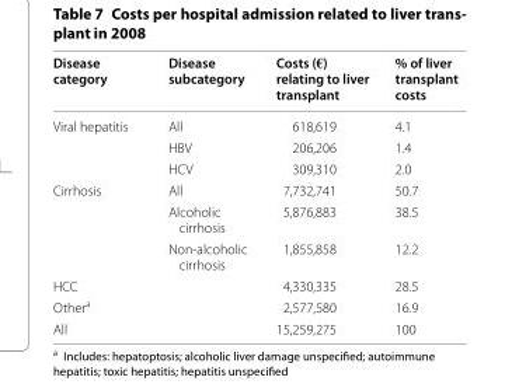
<table><thead><tr><td>Disease category</td><td>Disease subcategory</td><td>Costs (€) relating to liver transplant</td><td>% of liver transplant costs</td></tr></thead><tbody><tr><td rowspan="3">Viral hepatitis</td><td>All</td><td>618,619</td><td>4.1</td></tr><tr><td>HBV</td><td>206,206</td><td>1.4</td></tr><tr><td>HCV</td><td>309,310</td><td>2.0</td></tr><tr><td rowspan="3">Cirrhosis</td><td>All</td><td>7,732,741</td><td>50.7</td></tr><tr><td>Alcoholic cirrhosis</td><td>5,876,883</td><td>38.5</td></tr><tr><td>Non-alcoholic cirrhosis</td><td>1,855,858</td><td>12.2</td></tr><tr><td colspan="2">HCC</td><td>4,330,335</td><td>28.5</td></tr><tr><td colspan="2">Other<sup>a</sup></td><td>2,577,580</td><td>16.9</td></tr><tr><td colspan="2">All</td><td>15,259,275</td><td>100</td></tr></tbody></table>